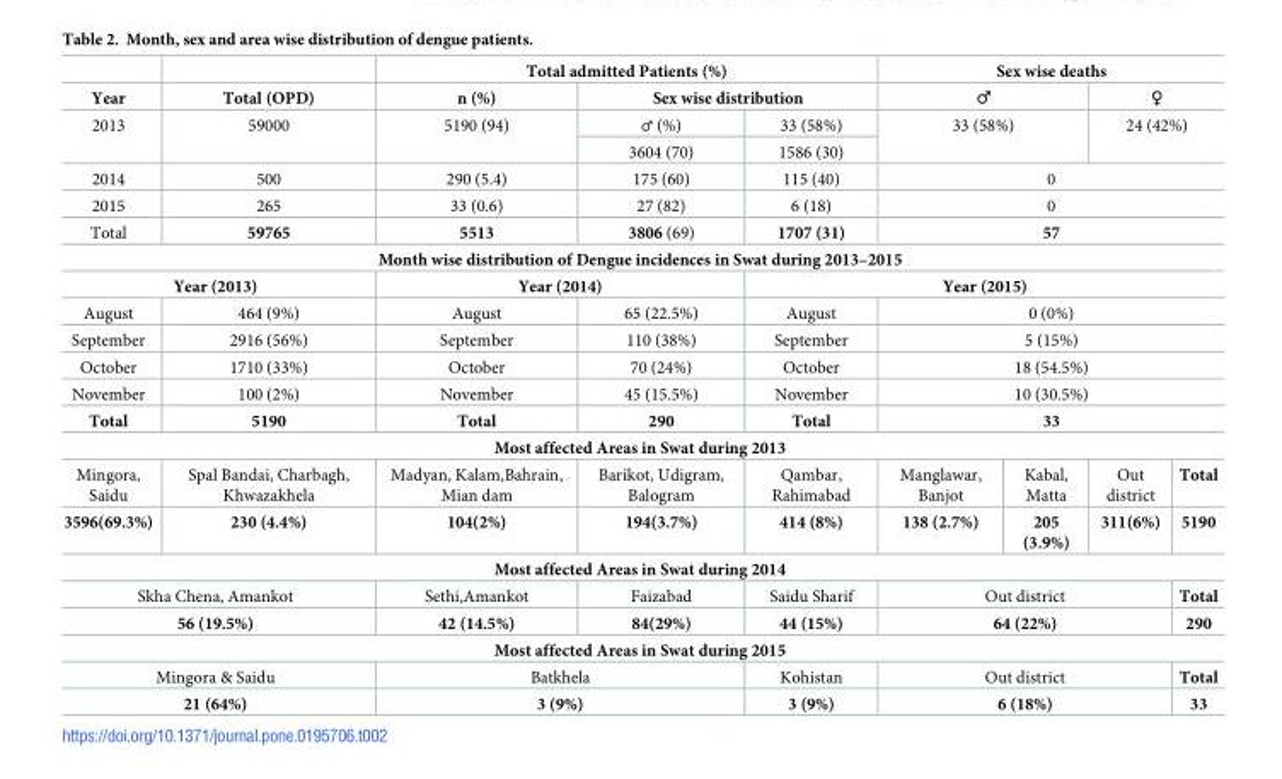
<table><thead><tr><td></td><td></td><td colspan="3">Total admitted Patients (%)</td><td colspan="4">Sex wise deaths</td></tr></thead><tbody><tr><td>Year</td><td>Total (OPD)</td><td>n (%)</td><td colspan="2">Sex wise distribution</td><td colspan="2">♂</td><td colspan="2">♀</td></tr><tr><td rowspan="2">2013</td><td rowspan="2">59000</td><td rowspan="2">5190 (94)</td><td>♂ (%)</td><td>33 (58%)</td><td rowspan="2" colspan="2">33 (58%)</td><td rowspan="2" colspan="2">24 (42%)</td></tr><tr><td>3604 (70)</td><td>1586 (30)</td></tr><tr><td>2014</td><td>500</td><td>290 (5.4)</td><td>175 (60)</td><td>115 (40)</td><td colspan="4">0</td></tr><tr><td>2015</td><td>265</td><td>33 (0.6)</td><td>27 (82)</td><td>6 (18)</td><td colspan="4">0</td></tr><tr><td>Total</td><td>59765</td><td>5513</td><td>3806 (69)</td><td>1707 (31)</td><td colspan="4">57</td></tr><tr><td colspan="9">Month wise distribution of Dengue incidences in Swat during 2013–2015</td></tr><tr><td colspan="2">Year (2013)</td><td colspan="2">Year (2014)</td><td colspan="5">Year (2015)</td></tr><tr><td>August</td><td>464 (9%)</td><td>August</td><td>65 (22.5%)</td><td>August</td><td colspan="4">0 (0%)</td></tr><tr><td>September</td><td>2916 (56%)</td><td>September</td><td>110 (38%)</td><td>September</td><td colspan="4">5 (15%)</td></tr><tr><td>October</td><td>1710 (33%)</td><td>October</td><td>70 (24%)</td><td>October</td><td colspan="4">18 (54.5%)</td></tr><tr><td>November</td><td>100 (2%)</td><td>November</td><td>45 (15.5%)</td><td>November</td><td colspan="4">10 (30.5%)</td></tr><tr><td>Total</td><td>5190</td><td>Total</td><td>290</td><td>Total</td><td colspan="4">33</td></tr><tr><td colspan="9">Most affected Areas in Swat during 2013</td></tr><tr><td>Mingora, Saidu</td><td>Spal Bandai, Charbagh, Khwazakhela</td><td>Madyan, Kalam,Bahrain, Mian dam</td><td>Barikot, Udigram, Balogram</td><td>Qambar, Rahimabad</td><td>Manglawar, Banjot</td><td>Kabal, Matta</td><td>Out district</td><td>Total</td></tr><tr><td>3596(69.3%)</td><td>230 (4.4%)</td><td>104(2%)</td><td>194(3.7%)</td><td>414 (8%)</td><td>138 (2.7%)</td><td>205 (3.9%)</td><td>311(6%)</td><td>5190</td></tr><tr><td colspan="9">Most affected Areas in Swat during 2014</td></tr><tr><td colspan="2">Skha Chena, Amankot</td><td>Sethi,Amankot</td><td>Faizabad</td><td>Saidu Sharif</td><td colspan="3">Out district</td><td>Total</td></tr><tr><td colspan="2">56 (19.5%)</td><td>42 (14.5%)</td><td>84(29%)</td><td>44 (15%)</td><td colspan="3">64 (22%)</td><td>290</td></tr><tr><td colspan="9">Most affected Areas in Swat during 2015</td></tr><tr><td colspan="2">Mingora &amp; Saidu</td><td colspan="2">Batkhela</td><td>Kohistan</td><td colspan="3">Out district</td><td>Total</td></tr><tr><td colspan="2">21 (64%)</td><td colspan="2">3 (9%)</td><td>3 (9%)</td><td colspan="3">6 (18%)</td><td>33</td></tr></tbody></table>